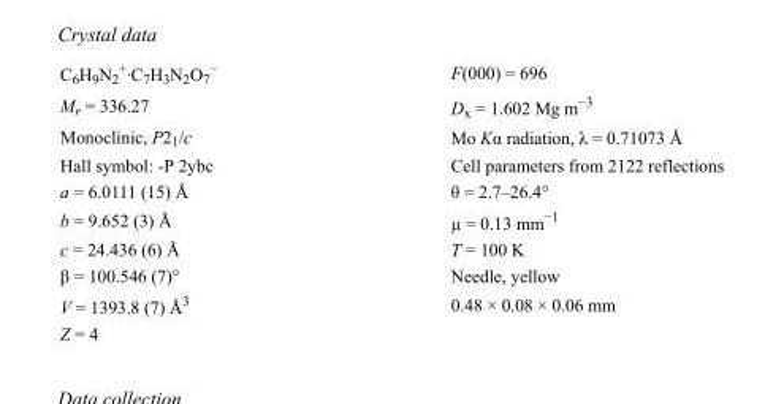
<table><tbody><tr><td>C<sub>6</sub>H<sub>9</sub>N<sub>2</sub> <sup>+</sup>·C<sub>7</sub>H<sub>3</sub>N<sub>2</sub>O<sub>7</sub> <sup>−</sup></td><td>F(000) = 696</td></tr><tr><td>M<sub>r</sub> = 336.27</td><td>D<sub>x</sub> = 1.602 Mg m<sup>−3</sup></td></tr><tr><td>Monoclinic, P2<sub>1</sub>/c</td><td>Mo Kα radiation, λ = 0.71073 Å</td></tr><tr><td>Hall symbol: -P 2ybc</td><td>Cell parameters from 2122 reflections</td></tr><tr><td>a = 6.0111 (15) Å</td><td>θ = 2.7–26.4°</td></tr><tr><td>b = 9.652 (3) Å</td><td>µ = 0.13 mm<sup>−1</sup></td></tr><tr><td>c = 24.436 (6) Å</td><td>T = 100 K</td></tr><tr><td>β = 100.546 (7)°</td><td>Needle, yellow</td></tr><tr><td>V = 1393.8 (7) Å<sup>3</sup></td><td>0.48 × 0.08 × 0.06 mm</td></tr><tr><td>Z = 4</td><td></td></tr></tbody></table>